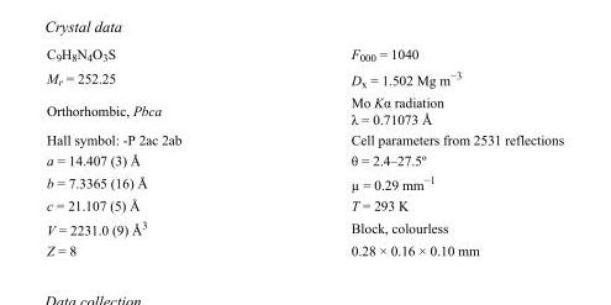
<table><tbody><tr><td>C<sub>9</sub>H<sub>8</sub>N<sub>4</sub>O<sub>3</sub>S</td><td>F<sub>000</sub> = 1040</td></tr><tr><td>M<sub>r</sub> = 252.25</td><td>D<sub>x</sub> = 1.502 Mg m<sup>−3</sup></td></tr><tr><td>Orthorhombic, Pbca</td><td>Mo Kα radiation λ = 0.71073 Å</td></tr><tr><td>Hall symbol: -P 2ac 2ab</td><td>Cell parameters from 2531 reflections</td></tr><tr><td>a = 14.407 (3) Å</td><td>θ = 2.4–27.5º</td></tr><tr><td>b = 7.3365 (16) Å</td><td>µ = 0.29 mm<sup>−1</sup></td></tr><tr><td>c = 21.107 (5) Å</td><td>T = 293 K</td></tr><tr><td>V = 2231.0 (9) Å<sup>3</sup></td><td>Block, colourless</td></tr><tr><td>Z = 8</td><td>0.28 × 0.16 × 0.10 mm</td></tr></tbody></table>